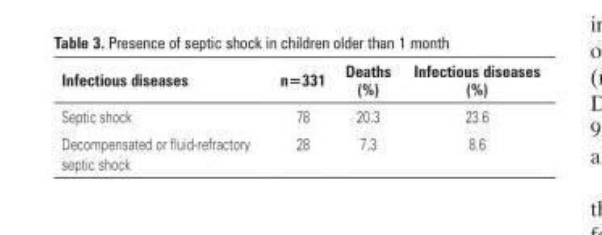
<table><thead><tr><td>Infectious diseases</td><td>n=331</td><td>Deaths (%)</td><td>Infectious diseases (%)</td></tr></thead><tbody><tr><td>Septic shock</td><td>78</td><td>20.3</td><td>23.6</td></tr><tr><td>Decompensated or fluid-refractory septic shock</td><td>28</td><td>7.3</td><td>8.6</td></tr></tbody></table>